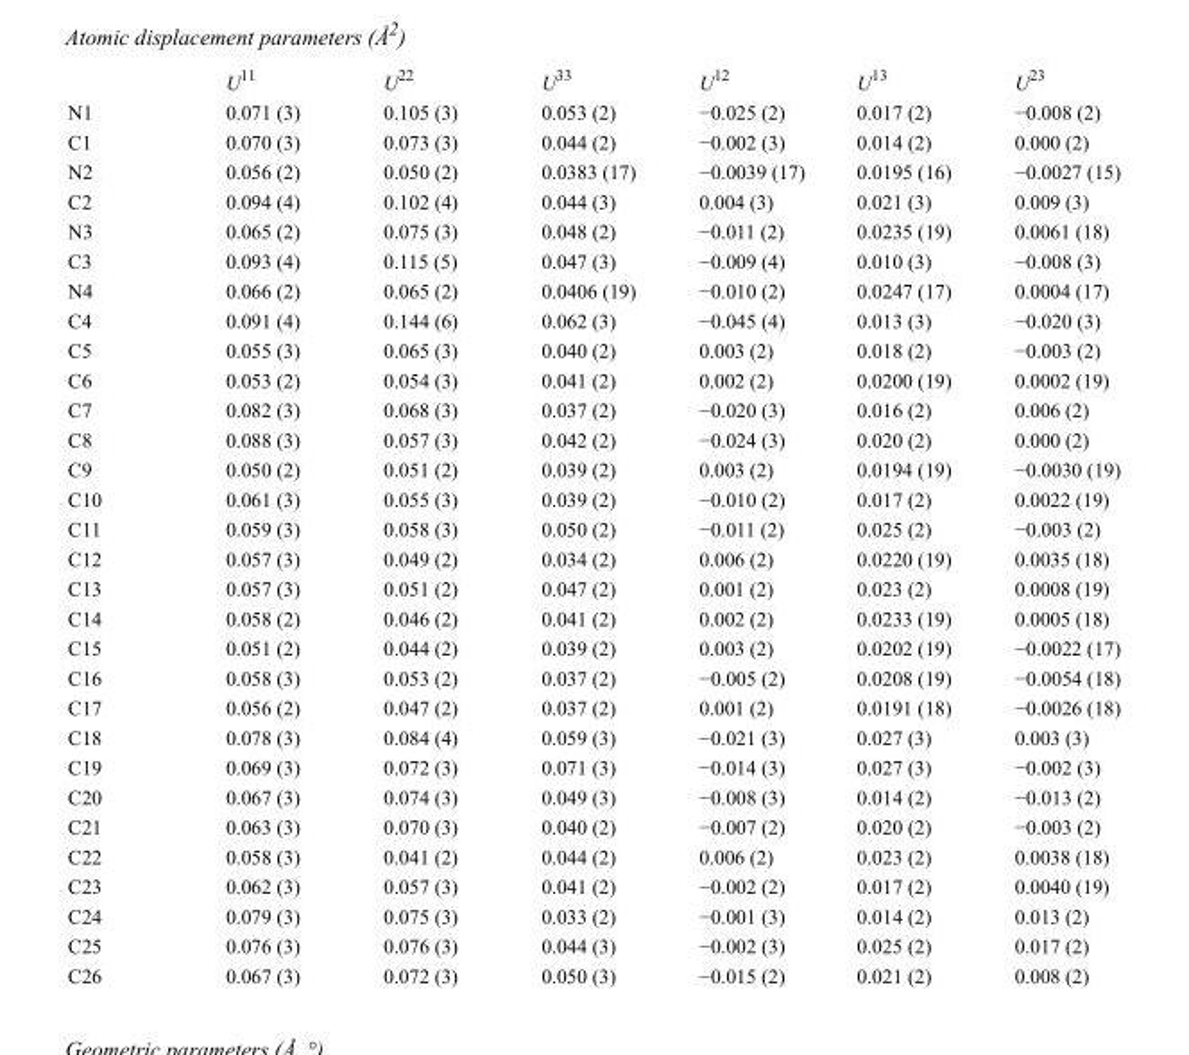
<table><thead><tr><td></td><td>U<sup>11</sup></td><td>U<sup>22</sup></td><td>U<sup>33</sup></td><td>U<sup>12</sup></td><td>U<sup>13</sup></td><td>U<sup>23</sup></td></tr></thead><tbody><tr><td>N1</td><td>0.071 (3)</td><td>0.105 (3)</td><td>0.053 (2)</td><td>−0.025 (2)</td><td>0.017 (2)</td><td>−0.008 (2)</td></tr><tr><td>C1</td><td>0.070 (3)</td><td>0.073 (3)</td><td>0.044 (2)</td><td>−0.002 (3)</td><td>0.014 (2)</td><td>0.000 (2)</td></tr><tr><td>N2</td><td>0.056 (2)</td><td>0.050 (2)</td><td>0.0383 (17)</td><td>−0.0039 (17)</td><td>0.0195 (16)</td><td>−0.0027 (15)</td></tr><tr><td>C2</td><td>0.094 (4)</td><td>0.102 (4)</td><td>0.044 (3)</td><td>0.004 (3)</td><td>0.021 (3)</td><td>0.009 (3)</td></tr><tr><td>N3</td><td>0.065 (2)</td><td>0.075 (3)</td><td>0.048 (2)</td><td>−0.011 (2)</td><td>0.0235 (19)</td><td>0.0061 (18)</td></tr><tr><td>C3</td><td>0.093 (4)</td><td>0.115 (5)</td><td>0.047 (3)</td><td>−0.009 (4)</td><td>0.010 (3)</td><td>−0.008 (3)</td></tr><tr><td>N4</td><td>0.066 (2)</td><td>0.065 (2)</td><td>0.0406 (19)</td><td>−0.010 (2)</td><td>0.0247 (17)</td><td>0.0004 (17)</td></tr><tr><td>C4</td><td>0.091 (4)</td><td>0.144 (6)</td><td>0.062 (3)</td><td>−0.045 (4)</td><td>0.013 (3)</td><td>−0.020 (3)</td></tr><tr><td>C5</td><td>0.055 (3)</td><td>0.065 (3)</td><td>0.040 (2)</td><td>0.003 (2)</td><td>0.018 (2)</td><td>−0.003 (2)</td></tr><tr><td>C6</td><td>0.053 (2)</td><td>0.054 (3)</td><td>0.041 (2)</td><td>0.002 (2)</td><td>0.0200 (19)</td><td>0.0002 (19)</td></tr><tr><td>C7</td><td>0.082 (3)</td><td>0.068 (3)</td><td>0.037 (2)</td><td>−0.020 (3)</td><td>0.016 (2)</td><td>0.006 (2)</td></tr><tr><td>C8</td><td>0.088 (3)</td><td>0.057 (3)</td><td>0.042 (2)</td><td>−0.024 (3)</td><td>0.020 (2)</td><td>0.000 (2)</td></tr><tr><td>C9</td><td>0.050 (2)</td><td>0.051 (2)</td><td>0.039 (2)</td><td>0.003 (2)</td><td>0.0194 (19)</td><td>−0.0030 (19)</td></tr><tr><td>C10</td><td>0.061 (3)</td><td>0.055 (3)</td><td>0.039 (2)</td><td>−0.010 (2)</td><td>0.017 (2)</td><td>0.0022 (19)</td></tr><tr><td>C11</td><td>0.059 (3)</td><td>0.058 (3)</td><td>0.050 (2)</td><td>−0.011 (2)</td><td>0.025 (2)</td><td>−0.003 (2)</td></tr><tr><td>C12</td><td>0.057 (3)</td><td>0.049 (2)</td><td>0.034 (2)</td><td>0.006 (2)</td><td>0.0220 (19)</td><td>0.0035 (18)</td></tr><tr><td>C13</td><td>0.057 (3)</td><td>0.051 (2)</td><td>0.047 (2)</td><td>0.001 (2)</td><td>0.023 (2)</td><td>0.0008 (19)</td></tr><tr><td>C14</td><td>0.058 (2)</td><td>0.046 (2)</td><td>0.041 (2)</td><td>0.002 (2)</td><td>0.0233 (19)</td><td>0.0005 (18)</td></tr><tr><td>C15</td><td>0.051 (2)</td><td>0.044 (2)</td><td>0.039 (2)</td><td>0.003 (2)</td><td>0.0202 (19)</td><td>−0.0022 (17)</td></tr><tr><td>C16</td><td>0.058 (3)</td><td>0.053 (2)</td><td>0.037 (2)</td><td>−0.005 (2)</td><td>0.0208 (19)</td><td>−0.0054 (18)</td></tr><tr><td>C17</td><td>0.056 (2)</td><td>0.047 (2)</td><td>0.037 (2)</td><td>0.001 (2)</td><td>0.0191 (18)</td><td>−0.0026 (18)</td></tr><tr><td>C18</td><td>0.078 (3)</td><td>0.084 (4)</td><td>0.059 (3)</td><td>−0.021 (3)</td><td>0.027 (3)</td><td>0.003 (3)</td></tr><tr><td>C19</td><td>0.069 (3)</td><td>0.072 (3)</td><td>0.071 (3)</td><td>−0.014 (3)</td><td>0.027 (3)</td><td>−0.002 (3)</td></tr><tr><td>C20</td><td>0.067 (3)</td><td>0.074 (3)</td><td>0.049 (3)</td><td>−0.008 (3)</td><td>0.014 (2)</td><td>−0.013 (2)</td></tr><tr><td>C21</td><td>0.063 (3)</td><td>0.070 (3)</td><td>0.040 (2)</td><td>−0.007 (2)</td><td>0.020 (2)</td><td>−0.003 (2)</td></tr><tr><td>C22</td><td>0.058 (3)</td><td>0.041 (2)</td><td>0.044 (2)</td><td>0.006 (2)</td><td>0.023 (2)</td><td>0.0038 (18)</td></tr><tr><td>C23</td><td>0.062 (3)</td><td>0.057 (3)</td><td>0.041 (2)</td><td>−0.002 (2)</td><td>0.017 (2)</td><td>0.0040 (19)</td></tr><tr><td>C24</td><td>0.079 (3)</td><td>0.075 (3)</td><td>0.033 (2)</td><td>−0.001 (3)</td><td>0.014 (2)</td><td>0.013 (2)</td></tr><tr><td>C25</td><td>0.076 (3)</td><td>0.076 (3)</td><td>0.044 (3)</td><td>−0.002 (3)</td><td>0.025 (2)</td><td>0.017 (2)</td></tr><tr><td>C26</td><td>0.067 (3)</td><td>0.072 (3)</td><td>0.050 (3)</td><td>−0.015 (2)</td><td>0.021 (2)</td><td>0.008 (2)</td></tr></tbody></table>